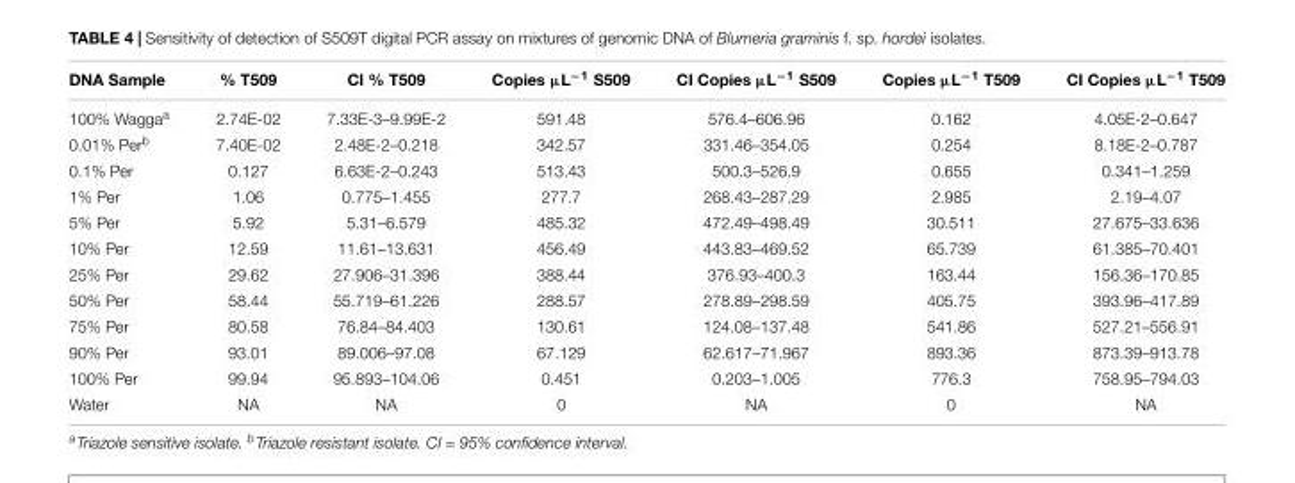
<table><thead><tr><td>DNA Sample</td><td>% T509</td><td>CI % T509</td><td>Copies µL<sup>−1</sup> S509</td><td>CI Copies µL<sup>−1</sup> S509</td><td>Copies µL<sup>−1</sup> T509</td><td>CI Copies µL<sup>−1</sup> T509</td></tr></thead><tbody><tr><td>100% Wagga<sup>a</sup></td><td>2.74E-02</td><td>7.33E-3–9.99E-2</td><td>591.48</td><td>576.4–606.96</td><td>0.162</td><td>4.05E-2–0.647</td></tr><tr><td>0.01% Per<sup>b</sup></td><td>7.40E-02</td><td>2.48E-2–0.218</td><td>342.57</td><td>331.46–354.05</td><td>0.254</td><td>8.18E-2–0.787</td></tr><tr><td>0.1% Per</td><td>0.127</td><td>6.63E-2–0.243</td><td>513.43</td><td>500.3–526.9</td><td>0.655</td><td>0.341–1.259</td></tr><tr><td>1% Per</td><td>1.06</td><td>0.775–1.455</td><td>277.7</td><td>268.43–287.29</td><td>2.985</td><td>2.19–4.07</td></tr><tr><td>5% Per</td><td>5.92</td><td>5.31–6.579</td><td>485.32</td><td>472.49–498.49</td><td>30.511</td><td>27.675–33.636</td></tr><tr><td>10% Per</td><td>12.59</td><td>11.61–13.631</td><td>456.49</td><td>443.83–469.52</td><td>65.739</td><td>61.385–70.401</td></tr><tr><td>25% Per</td><td>29.62</td><td>27.906–31.396</td><td>388.44</td><td>376.93–400.3</td><td>163.44</td><td>156.36–170.85</td></tr><tr><td>50% Per</td><td>58.44</td><td>55.719–61.226</td><td>288.57</td><td>278.89–298.59</td><td>405.75</td><td>393.96–417.89</td></tr><tr><td>75% Per</td><td>80.58</td><td>76.84–84.403</td><td>130.61</td><td>124.08–137.48</td><td>541.86</td><td>527.21–556.91</td></tr><tr><td>90% Per</td><td>93.01</td><td>89.006–97.08</td><td>67.129</td><td>62.617–71.967</td><td>893.36</td><td>873.39–913.78</td></tr><tr><td>100% Per</td><td>99.94</td><td>95.893–104.06</td><td>0.451</td><td>0.203–1.005</td><td>776.3</td><td>758.95–794.03</td></tr><tr><td>Water</td><td>NA</td><td>NA</td><td>0</td><td>NA</td><td>0</td><td>NA</td></tr></tbody></table>